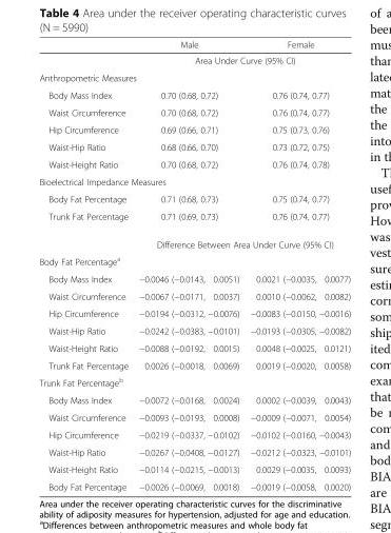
<table><thead><tr><td></td><td>Male</td><td>Female</td></tr></thead><tbody><tr><td></td><td colspan="2">Area Under Curve (95% CI)</td></tr><tr><td colspan="3">Anthropometric Measures</td></tr><tr><td>Body Mass Index</td><td>0.70 (0.68, 0.72)</td><td>0.76 (0.74, 0.77)</td></tr><tr><td>Waist Circumference</td><td>0.70 (0.68, 0.72)</td><td>0.76 (0.74, 0.77)</td></tr><tr><td>Hip Circumference</td><td>0.69 (0.66, 0.71)</td><td>0.75 (0.73, 0.76)</td></tr><tr><td>Waist-Hip Ratio</td><td>0.68 (0.66, 0.70)</td><td>0.73 (0.72, 0.75)</td></tr><tr><td>Waist-Height Ratio</td><td>0.70 (0.68, 0.72)</td><td>0.76 (0.74, 0.78)</td></tr><tr><td colspan="3">Bioelectrical Impedance Measures</td></tr><tr><td>Body Fat Percentage</td><td>0.71 (0.68, 0.73)</td><td>0.75 (0.74, 0.77)</td></tr><tr><td rowspan="2">Trunk Fat Percentage</td><td>0.71 (0.69, 0.73)</td><td>0.76 (0.74, 0.77)</td></tr><tr><td colspan="2">Difference Between Area Under Curve (95% CI)</td></tr><tr><td colspan="3">Body Fat Percentage<sup>a</sup></td></tr><tr><td>Body Mass Index</td><td>−0.0046 (−0.0143, 0.0051)</td><td>0.0021 (−0.0035, 0.0077)</td></tr><tr><td>Waist Circumference</td><td>−0.0067 (−0.0171, 0.0037)</td><td>0.0010 (−0.0062, 0.0082)</td></tr><tr><td>Hip Circumference</td><td>−0.0194 (−0.0312, −0.0076)</td><td>−0.0083 (−0.0150, −0.0016)</td></tr><tr><td>Waist-Hip Ratio</td><td>−0.0242 (−0.0383, −0.0101)</td><td>−0.0193 (−0.0305, −0.0082)</td></tr><tr><td>Waist-Height Ratio</td><td>−0.0088 (−0.0192, 0.0015)</td><td>0.0048 (−0.0025, 0.0121)</td></tr><tr><td>Trunk Fat Percentage</td><td>0.0026 (−0.0018, 0.0069)</td><td>0.0019 (−0.0020, 0.0058)</td></tr><tr><td colspan="3">Trunk Fat Percentage<sup>b</sup></td></tr><tr><td>Body Mass Index</td><td>−0.0072 (−0.0168, 0.0024)</td><td>0.0002 (−0.0039, 0.0043)</td></tr><tr><td>Waist Circumference</td><td>−0.0093 (−0.0193, 0.0008)</td><td>−0.0009 (−0.0071, 0.0054)</td></tr><tr><td>Hip Circumference</td><td>−0.0219 (−0.0337, −0.0102)</td><td>−0.0102 (−0.0160, −0.0043)</td></tr><tr><td>Waist-Hip Ratio</td><td>−0.0267 (−0.0408, −0.0127)</td><td>−0.0212 (−0.0323, −0.0101)</td></tr><tr><td>Waist-Height Ratio</td><td>−0.0114 (−0.0215, −0.0013)</td><td>0.0029 (−0.0035, 0.0093)</td></tr><tr><td>Body Fat Percentage</td><td>−0.0026 (−0.0069, 0.0018)</td><td>−0.0019 (−0.0058, 0.0020)</td></tr></tbody></table>